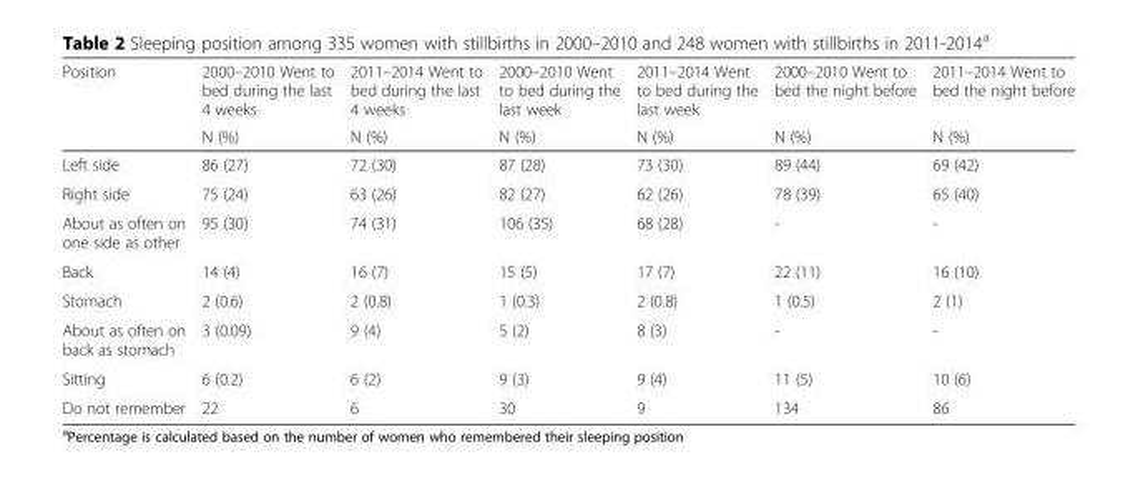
<table><thead><tr><td rowspan="2">Position</td><td rowspan="2">2000–2010 Went to bed during the last 4 weeks N (%)</td><td rowspan="2">2011–2014 Went to bed during the last 4 weeks N (%)</td><td rowspan="2">2000–2010 Went to bed during the last week N (%)</td><td rowspan="2">2011–2014 Went to bed during the last week N (%)</td><td rowspan="2">2000–2010 Went to bed the night before N (%)</td><td rowspan="2">2011–2014 Went to bed the night before N (%)</td></tr><tr></tr></thead><tbody><tr><td>Left side</td><td>86 (27)</td><td>72 (30)</td><td>87 (28)</td><td>73 (30)</td><td>89 (44)</td><td>69 (42)</td></tr><tr><td>Right side</td><td>75 (24)</td><td>63 (26)</td><td>82 (27)</td><td>62 (26)</td><td>78 (39)</td><td>65 (40)</td></tr><tr><td>About as often on one side as other</td><td>95 (30)</td><td>74 (31)</td><td>106 (35)</td><td>68 (28)</td><td>-</td><td>-</td></tr><tr><td>Back</td><td>14 (4)</td><td>16 (7)</td><td>15 (5)</td><td>17 (7)</td><td>22 (11)</td><td>16 (10)</td></tr><tr><td>Stomach</td><td>2 (0.6)</td><td>2 (0.8)</td><td>1 (0.3)</td><td>2 (0.8)</td><td>1 (0.5)</td><td>2 (1)</td></tr><tr><td>About as often on back as stomach</td><td>3 (0.09)</td><td>9 (4)</td><td>5 (2)</td><td>8 (3)</td><td>-</td><td>-</td></tr><tr><td>Sitting</td><td>6 (0.2)</td><td>6 (2)</td><td>9 (3)</td><td>9 (4)</td><td>11 (5)</td><td>10 (6)</td></tr><tr><td>Do not remember</td><td>22</td><td>6</td><td>30</td><td>9</td><td>134</td><td>86</td></tr></tbody></table>